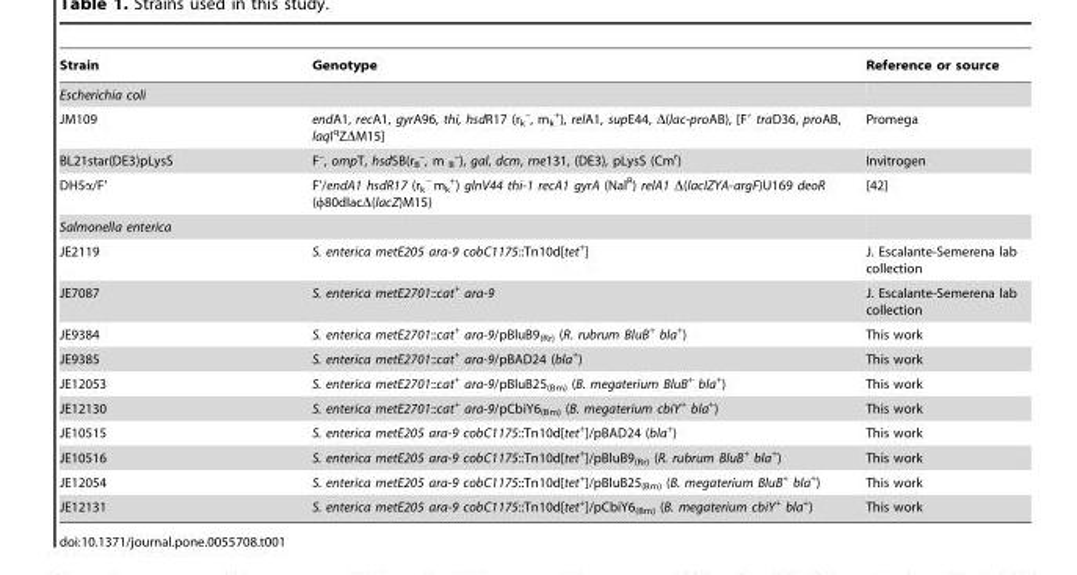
<table><thead><tr><td>Strain</td><td>Genotype</td><td>Reference or source</td></tr></thead><tbody><tr><td colspan="3">Escherichia coli</td></tr><tr><td>JM109</td><td>endA1, recA1, gyrA96, thi, hsdR17 (r<sub>k</sub> <sup>–</sup>, m<sub>k</sub> <sup>+</sup>), relA1, supE44, Δ(lac-proAB), [F′ traD36, proAB, laqI<sup>q</sup>ZΔM15]</td><td>Promega</td></tr><tr><td>BL21star(DE3)pLysS</td><td>F<sup>–</sup>, ompT, hsdSB(r<sub>B</sub> <sup>–</sup>, m <sub>B</sub> <sup>–</sup>), gal, dcm, rne131, (DE3), pLysS (Cm<sup>r</sup>)</td><td>Invitrogen</td></tr><tr><td>DH5α/F’</td><td>F’/endA1 hsdR17 (r<sub>k</sub> <sup>−</sup>m<sub>k</sub> <sup>+</sup>) glnV44 thi-1 recA1 gyrA (Nal<sup>R</sup>) relA1 Δ(lacIZYA-argF)U169 deoR (φ80dlacΔ(lacZ)M15)</td><td>[42]</td></tr><tr><td colspan="3">Salmonella enterica</td></tr><tr><td>JE2119</td><td>S. enterica metE205 ara-9 cobC1175::Tn10d[tet<sup>+</sup>]</td><td>J. Escalante-Semerena lab collection</td></tr><tr><td>JE7087</td><td>S. enterica metE2701::cat<sup>+</sup> ara-9</td><td>J. Escalante-Semerena lab collection</td></tr><tr><td>JE9384</td><td>S. enterica metE2701::cat<sup>+</sup> ara-9/pBluB9<sub>(Rr)</sub> (R. rubrum BluB<sup>+</sup> bla<sup>+</sup>)</td><td>This work</td></tr><tr><td>JE9385</td><td>S. enterica metE2701::cat<sup>+</sup> ara-9/pBAD24 (bla<sup>+</sup>)</td><td>This work</td></tr><tr><td>JE12053</td><td>S. enterica metE2701::cat<sup>+</sup> ara-9/pBluB25<sub>(Bm)</sub> (B. megaterium BluB<sup>+</sup> bla<sup>+</sup>)</td><td>This work</td></tr><tr><td>JE12130</td><td>S. enterica metE2701::cat<sup>+</sup> ara-9/pCbiY6<sub>(Bm)</sub> (B. megaterium cbiY<sup>+</sup> bla<sup>+</sup>)</td><td>This work</td></tr><tr><td>JE10515</td><td>S. enterica metE205 ara-9 cobC1175::Tn10d[tet<sup>+</sup>]/pBAD24 (bla<sup>+</sup>)</td><td>This work</td></tr><tr><td>JE10516</td><td>S. enterica metE205 ara-9 cobC1175::Tn10d[tet<sup>+</sup>]/pBluB9<sub>(Rr)</sub> (R. rubrum BluB<sup>+</sup> bla<sup>+</sup>)</td><td>This work</td></tr><tr><td>JE12054</td><td>S. enterica metE205 ara-9 cobC1175::Tn10d[tet<sup>+</sup>]/pBluB25<sub>(Bm)</sub> (B. megaterium BluB<sup>+</sup> bla<sup>+</sup>)</td><td>This work</td></tr><tr><td>JE12131</td><td>S. enterica metE205 ara-9 cobC1175::Tn10d[tet<sup>+</sup>]/pCbiY6<sub>(Bm)</sub> (B. megaterium cbiY<sup>+</sup> bla<sup>+</sup>)</td><td>This work</td></tr></tbody></table>